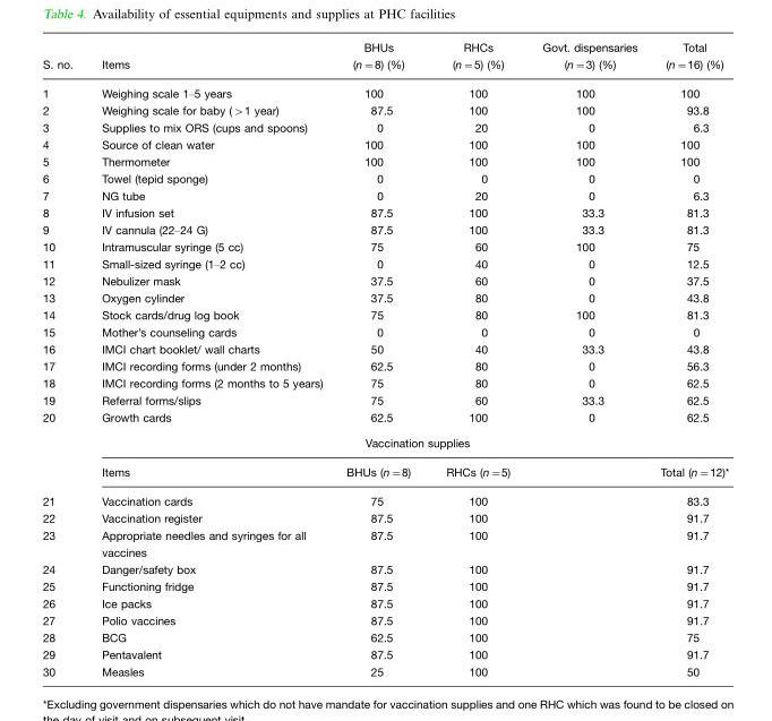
<table><thead><tr><td>S. no.</td><td>Items</td><td>BHUs (n=8) (%)</td><td>RHCs (n=5) (%)</td><td>Govt. dispensaries (n=3) (%)</td><td>Total (n=16) (%)</td></tr></thead><tbody><tr><td>1</td><td>Weighing scale 1–5 years</td><td>100</td><td>100</td><td>100</td><td>100</td></tr><tr><td>2</td><td>Weighing scale for baby (&gt;1 year)</td><td>87.5</td><td>100</td><td>100</td><td>93.8</td></tr><tr><td>3</td><td>Supplies to mix ORS (cups and spoons)</td><td>0</td><td>20</td><td>0</td><td>6.3</td></tr><tr><td>4</td><td>Source of clean water</td><td>100</td><td>100</td><td>100</td><td>100</td></tr><tr><td>5</td><td>Thermometer</td><td>100</td><td>100</td><td>100</td><td>100</td></tr><tr><td>6</td><td>Towel (tepid sponge)</td><td>0</td><td>0</td><td>0</td><td>0</td></tr><tr><td>7</td><td>NG tube</td><td>0</td><td>20</td><td>0</td><td>6.3</td></tr><tr><td>8</td><td>IV infusion set</td><td>87.5</td><td>100</td><td>33.3</td><td>81.3</td></tr><tr><td>9</td><td>IV cannula (22–24 G)</td><td>87.5</td><td>100</td><td>33.3</td><td>81.3</td></tr><tr><td>10</td><td>Intramuscular syringe (5 cc)</td><td>75</td><td>60</td><td>100</td><td>75</td></tr><tr><td>11</td><td>Small-sized syringe (1–2 cc)</td><td>0</td><td>40</td><td>0</td><td>12.5</td></tr><tr><td>12</td><td>Nebulizer mask</td><td>37.5</td><td>60</td><td>0</td><td>37.5</td></tr><tr><td>13</td><td>Oxygen cylinder</td><td>37.5</td><td>80</td><td>0</td><td>43.8</td></tr><tr><td>14</td><td>Stock cards/drug log book</td><td>75</td><td>80</td><td>100</td><td>81.3</td></tr><tr><td>15</td><td>Mother’s counseling cards</td><td>0</td><td>0</td><td>0</td><td>0</td></tr><tr><td>16</td><td>IMCI chart booklet/ wall charts</td><td>50</td><td>40</td><td>33.3</td><td>43.8</td></tr><tr><td>17</td><td>IMCI recording forms (under 2 months)</td><td>62.5</td><td>80</td><td>0</td><td>56.3</td></tr><tr><td>18</td><td>IMCI recording forms (2 months to 5 years)</td><td>75</td><td>80</td><td>0</td><td>62.5</td></tr><tr><td>19</td><td>Referral forms/slips</td><td>75</td><td>60</td><td>33.3</td><td>62.5</td></tr><tr><td rowspan="3">20</td><td>Growth cards</td><td>62.5</td><td>100</td><td>0</td><td>62.5</td></tr><tr><td colspan="5">Vaccination supplies</td></tr><tr><td>Items</td><td>BHUs (n=8)</td><td>RHCs (n=5)</td><td></td><td>Total (n=12)*</td></tr><tr><td>21</td><td>Vaccination cards</td><td>75</td><td>100</td><td></td><td>83.3</td></tr><tr><td>22</td><td>Vaccination register</td><td>87.5</td><td>100</td><td></td><td>91.7</td></tr><tr><td>23</td><td>Appropriate needles and syringes for all vaccines</td><td>87.5</td><td>100</td><td></td><td>91.7</td></tr><tr><td>24</td><td>Danger/safety box</td><td>87.5</td><td>100</td><td></td><td>91.7</td></tr><tr><td>25</td><td>Functioning fridge</td><td>87.5</td><td>100</td><td></td><td>91.7</td></tr><tr><td>26</td><td>Ice packs</td><td>87.5</td><td>100</td><td></td><td>91.7</td></tr><tr><td>27</td><td>Polio vaccines</td><td>87.5</td><td>100</td><td></td><td>91.7</td></tr><tr><td>28</td><td>BCG</td><td>62.5</td><td>100</td><td></td><td>75</td></tr><tr><td>29</td><td>Pentavalent</td><td>87.5</td><td>100</td><td></td><td>91.7</td></tr><tr><td>30</td><td>Measles</td><td>25</td><td>100</td><td></td><td>50</td></tr></tbody></table>